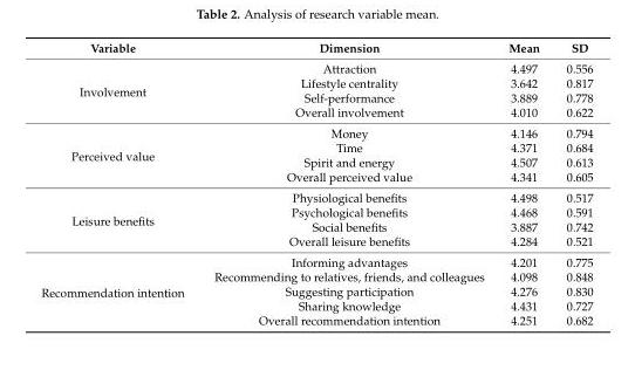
<table><thead><tr><td>Variable</td><td>Dimension</td><td>Mean</td><td>SD</td></tr></thead><tbody><tr><td rowspan="4">Involvement</td><td>Attraction</td><td>4.497</td><td>0.556</td></tr><tr><td>Lifestyle centrality</td><td>3.642</td><td>0.817</td></tr><tr><td>Self-performance</td><td>3.889</td><td>0.778</td></tr><tr><td>Overall involvement</td><td>4.010</td><td>0.622</td></tr><tr><td rowspan="4">Perceived value</td><td>Money</td><td>4.146</td><td>0.794</td></tr><tr><td>Time</td><td>4.371</td><td>0.684</td></tr><tr><td>Spirit and energy</td><td>4.507</td><td>0.613</td></tr><tr><td>Overall perceived value</td><td>4.341</td><td>0.605</td></tr><tr><td rowspan="4">Leisure benefits</td><td>Physiological benefits</td><td>4.498</td><td>0.517</td></tr><tr><td>Psychological benefits</td><td>4.468</td><td>0.591</td></tr><tr><td>Social benefits</td><td>3.887</td><td>0.742</td></tr><tr><td>Overall leisure benefits</td><td>4.284</td><td>0.521</td></tr><tr><td rowspan="5">Recommendation intention</td><td>Informing advantages</td><td>4.201</td><td>0.775</td></tr><tr><td>Recommending to relatives, friends, and colleagues</td><td>4.098</td><td>0.848</td></tr><tr><td>Suggesting participation</td><td>4.276</td><td>0.830</td></tr><tr><td>Sharing knowledge</td><td>4.431</td><td>0.727</td></tr><tr><td>Overall recommendation intention</td><td>4.251</td><td>0.682</td></tr></tbody></table>